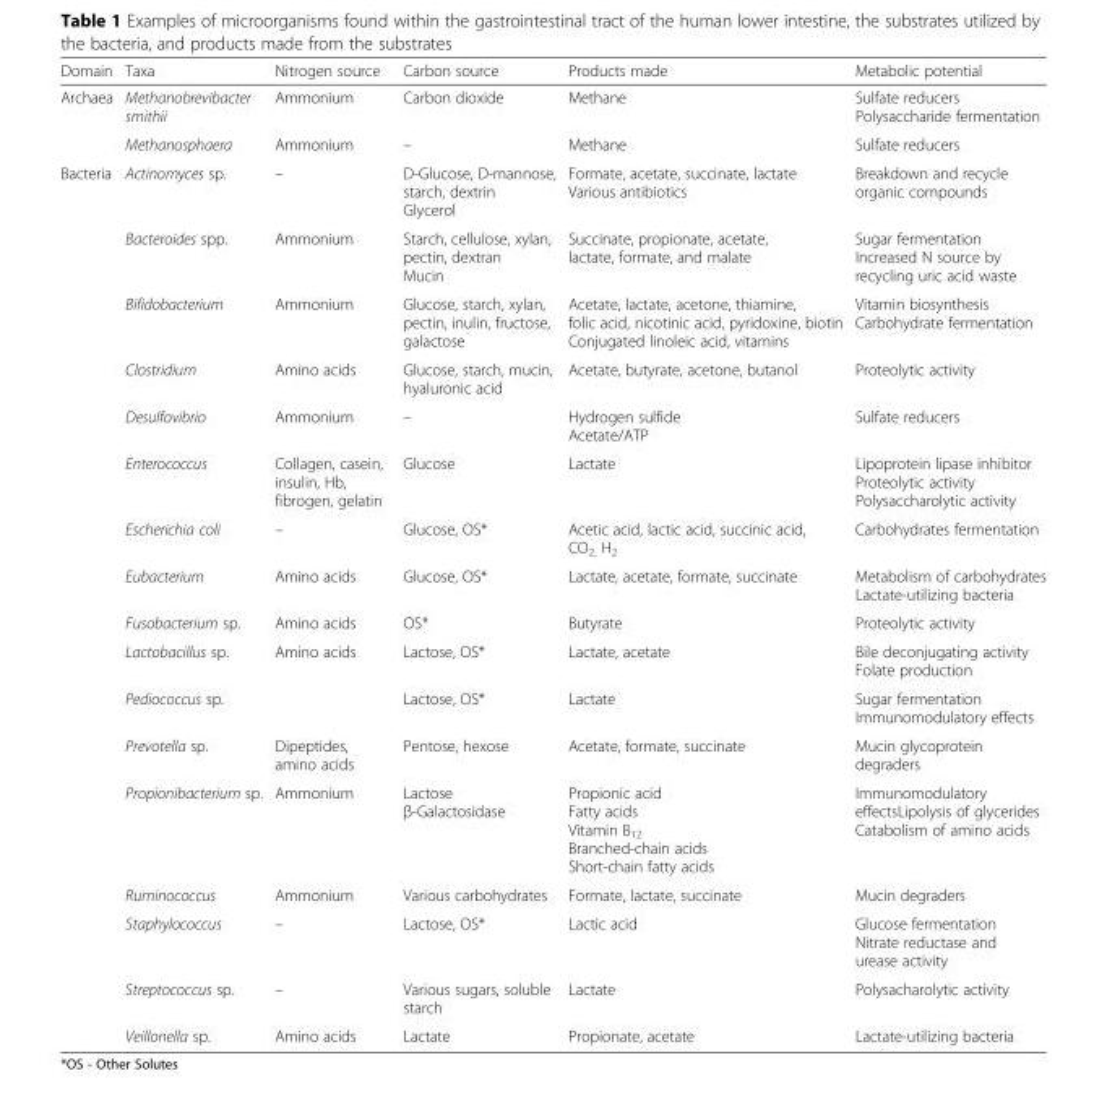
<table><thead><tr><td>Domain</td><td>Taxa</td><td>Nitrogen source</td><td>Carbon source</td><td>Products made</td><td>Metabolic potential</td></tr></thead><tbody><tr><td rowspan="2">Archaea</td><td>Methanobrevibacter smithii</td><td>Ammonium</td><td>Carbon dioxide</td><td>Methane</td><td>Sulfate reducers Polysaccharide fermentation</td></tr><tr><td>Methanosphaera</td><td>Ammonium</td><td>–</td><td>Methane</td><td>Sulfate reducers</td></tr><tr><td rowspan="17">Bacteria</td><td>Actinomyces sp.</td><td>–</td><td>D-Glucose, D-mannose, starch, dextrin Glycerol</td><td>Formate, acetate, succinate, lactate Various antibiotics</td><td>Breakdown and recycle organic compounds</td></tr><tr><td>Bacteroides spp.</td><td>Ammonium</td><td>Starch, cellulose, xylan, pectin, dextran Mucin</td><td>Succinate, propionate, acetate, lactate, formate, and malate</td><td>Sugar fermentation Increased N source by recycling uric acid waste</td></tr><tr><td>Bifidobacterium</td><td>Ammonium</td><td>Glucose, starch, xylan, pectin, inulin, fructose, galactose</td><td>Acetate, lactate, acetone, thiamine, folic acid, nicotinic acid, pyridoxine, biotin Conjugated linoleic acid, vitamins</td><td>Vitamin biosynthesis Carbohydrate fermentation</td></tr><tr><td>Clostridium</td><td>Amino acids</td><td>Glucose, starch, mucin, hyaluronic acid</td><td>Acetate, butyrate, acetone, butanol</td><td>Proteolytic activity</td></tr><tr><td>Desulfovibrio</td><td>Ammonium</td><td>–</td><td>Hydrogen sulfide Acetate/ATP</td><td>Sulfate reducers</td></tr><tr><td>Enterococcus</td><td>Collagen, casein, insulin, Hb, fibrogen, gelatin</td><td>Glucose</td><td>Lactate</td><td>Lipoprotein lipase inhibitor Proteolytic activity Polysaccharolytic activity</td></tr><tr><td>Escherichia coli</td><td>–</td><td>Glucose, OS*</td><td>Acetic acid, lactic acid, succinic acid, CO<sub>2,</sub> H<sub>2</sub></td><td>Carbohydrates fermentation</td></tr><tr><td>Eubacterium</td><td>Amino acids</td><td>Glucose, OS*</td><td>Lactate, acetate, formate, succinate</td><td>Metabolism of carbohydrates Lactate-utilizing bacteria</td></tr><tr><td>Fusobacterium sp.</td><td>Amino acids</td><td>OS*</td><td>Butyrate</td><td>Proteolytic activity</td></tr><tr><td>Lactobacillus sp.</td><td>Amino acids</td><td>Lactose, OS*</td><td>Lactate, acetate</td><td>Bile deconjugating activity Folate production</td></tr><tr><td>Pediococcus sp.</td><td></td><td>Lactose, OS*</td><td>Lactate</td><td>Sugar fermentation Immunomodulatory effects</td></tr><tr><td>Prevotella sp.</td><td>Dipeptides, amino acids</td><td>Pentose, hexose</td><td>Acetate, formate, succinate</td><td>Mucin glycoprotein degraders</td></tr><tr><td>Propionibacterium sp.</td><td>Ammonium</td><td>Lactose β-Galactosidase</td><td>Propionic acid Fatty acids Vitamin B<sub>12</sub> Branched-chain acids Short-chain fatty acids</td><td>Immunomodulatory effectsLipolysis of glycerides Catabolism of amino acids</td></tr><tr><td>Ruminococcus</td><td>Ammonium</td><td>Various carbohydrates</td><td>Formate, lactate, succinate</td><td>Mucin degraders</td></tr><tr><td>Staphylococcus</td><td>–</td><td>Lactose, OS*</td><td>Lactic acid</td><td>Glucose fermentation Nitrate reductase and urease activity</td></tr><tr><td>Streptococcus sp.</td><td>–</td><td>Various sugars, soluble starch</td><td>Lactate</td><td>Polysacharolytic activity</td></tr><tr><td>Veillonella sp.</td><td>Amino acids</td><td>Lactate</td><td>Propionate, acetate</td><td>Lactate-utilizing bacteria</td></tr></tbody></table>